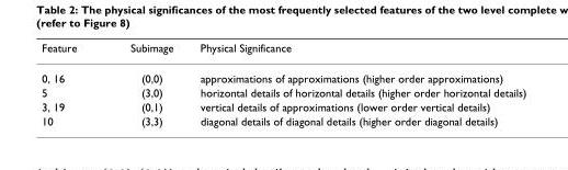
<table><thead><tr><td>Feature</td><td>Subimage</td><td>Physical Significance</td></tr></thead><tbody><tr><td>0, 16</td><td>(0,0)</td><td>approximations of approximations (higher order approximations)</td></tr><tr><td>5</td><td>(3,0)</td><td>horizontal details of horizontal details (higher order horizontal details)</td></tr><tr><td>3, 19</td><td>(0,1)</td><td>vertical details of approximations (lower order vertical details)</td></tr><tr><td>10</td><td>(3,3)</td><td>diagonal details of diagonal details (higher order diagonal details)</td></tr></tbody></table>